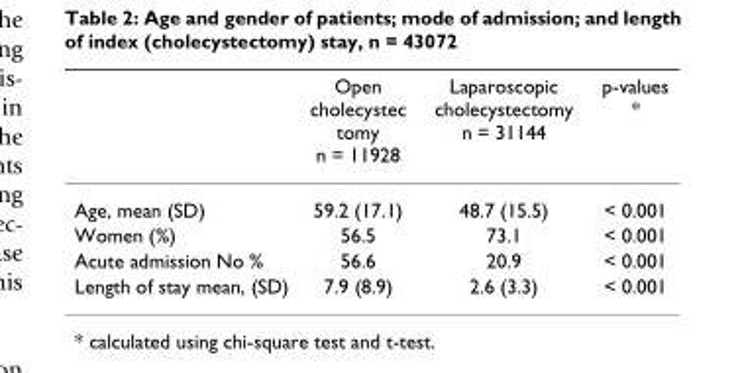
<table><thead><tr><td></td><td>Open cholecystec tomy n = 11928</td><td>Laparoscopic cholecystectomy n = 31144</td><td>p-values *</td></tr></thead><tbody><tr><td>Age, mean (SD)</td><td>59.2 (17.1)</td><td>48.7 (15.5)</td><td>&lt; 0.001</td></tr><tr><td>Women (%)</td><td>56.5</td><td>73.1</td><td>&lt; 0.001</td></tr><tr><td>Acute admission No %</td><td>56.6</td><td>20.9</td><td>&lt; 0.001</td></tr><tr><td>Length of stay mean, (SD)</td><td>7.9 (8.9)</td><td>2.6 (3.3)</td><td>&lt; 0.001</td></tr></tbody></table>